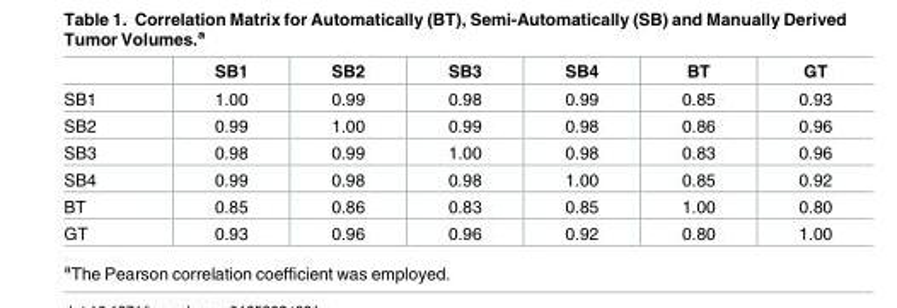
<table><thead><tr><td></td><td>SB1</td><td>SB2</td><td>SB3</td><td>SB4</td><td>BT</td><td>GT</td></tr></thead><tbody><tr><td>SB1</td><td>1.00</td><td>0.99</td><td>0.98</td><td>0.99</td><td>0.85</td><td>0.93</td></tr><tr><td>SB2</td><td>0.99</td><td>1.00</td><td>0.99</td><td>0.98</td><td>0.86</td><td>0.96</td></tr><tr><td>SB3</td><td>0.98</td><td>0.99</td><td>1.00</td><td>0.98</td><td>0.83</td><td>0.96</td></tr><tr><td>SB4</td><td>0.99</td><td>0.98</td><td>0.98</td><td>1.00</td><td>0.85</td><td>0.92</td></tr><tr><td>BT</td><td>0.85</td><td>0.86</td><td>0.83</td><td>0.85</td><td>1.00</td><td>0.80</td></tr><tr><td>GT</td><td>0.93</td><td>0.96</td><td>0.96</td><td>0.92</td><td>0.80</td><td>1.00</td></tr></tbody></table>